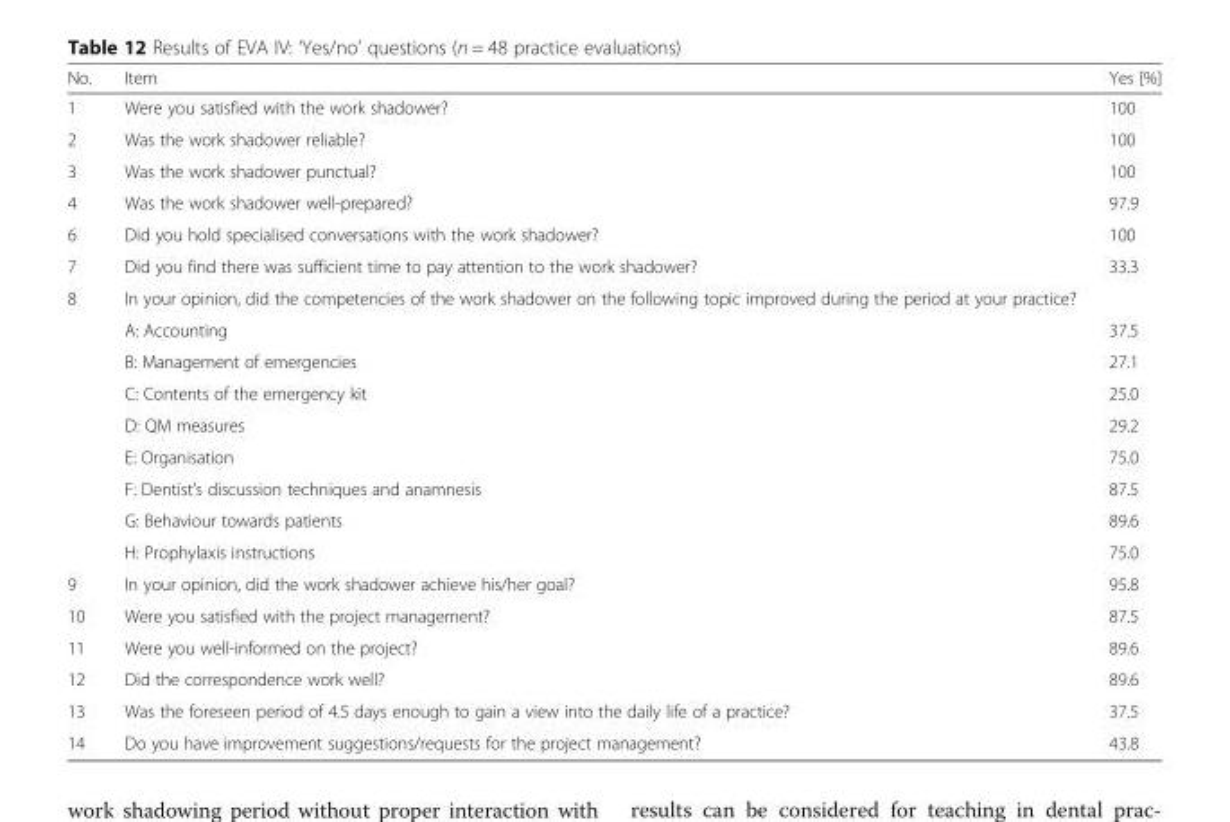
<table><thead><tr><td>No.</td><td>Item</td><td>Yes [%]</td></tr></thead><tbody><tr><td>1</td><td>Were you satisfied with the work shadower?</td><td>100</td></tr><tr><td>2</td><td>Was the work shadower reliable?</td><td>100</td></tr><tr><td>3</td><td>Was the work shadower punctual?</td><td>100</td></tr><tr><td>4</td><td>Was the work shadower well-prepared?</td><td>97.9</td></tr><tr><td>6</td><td>Did you hold specialised conversations with the work shadower?</td><td>100</td></tr><tr><td>7</td><td>Did you find there was sufficient time to pay attention to the work shadower?</td><td>33.3</td></tr><tr><td rowspan="9">8</td><td>In your opinion, did the competencies of the work shadower on the following topic improved during the period at your practice?</td><td></td></tr><tr><td>A: Accounting</td><td>37.5</td></tr><tr><td>B: Management of emergencies</td><td>27.1</td></tr><tr><td>C: Contents of the emergency kit</td><td>25.0</td></tr><tr><td>D: QM measures</td><td>29.2</td></tr><tr><td>E: Organisation</td><td>75.0</td></tr><tr><td>F: Dentist’s discussion techniques and anamnesis</td><td>87.5</td></tr><tr><td>G: Behaviour towards patients</td><td>89.6</td></tr><tr><td>H: Prophylaxis instructions</td><td>75.0</td></tr><tr><td>9</td><td>In your opinion, did the work shadower achieve his/her goal?</td><td>95.8</td></tr><tr><td>10</td><td>Were you satisfied with the project management?</td><td>87.5</td></tr><tr><td>11</td><td>Were you well-informed on the project?</td><td>89.6</td></tr><tr><td>12</td><td>Did the correspondence work well?</td><td>89.6</td></tr><tr><td>13</td><td>Was the foreseen period of 4.5 days enough to gain a view into the daily life of a practice?</td><td>37.5</td></tr><tr><td>14</td><td>Do you have improvement suggestions/requests for the project management?</td><td>43.8</td></tr></tbody></table>